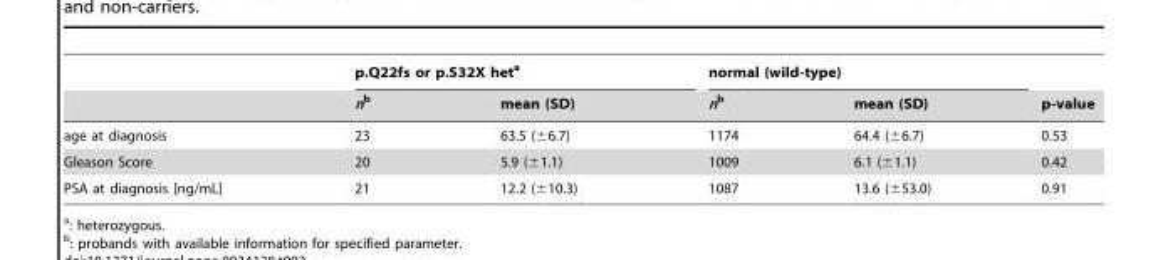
<table><thead><tr><td rowspan="2"></td><td colspan="2">p.Q22fs or p.S32X het<sup>a</sup></td><td colspan="2">normal (wild-type)</td><td rowspan="2">p-value</td></tr><tr><td>nb</td><td>mean (SD)</td><td>nb</td><td>mean (SD)</td></tr></thead><tbody><tr><td>age at diagnosis</td><td>23</td><td>63.5 (±6.7)</td><td>1174</td><td>64.4 (±6.7)</td><td>0.53</td></tr><tr><td>Gleason Score</td><td>20</td><td>5.9 (±1.1)</td><td>1009</td><td>6.1 (±1.1)</td><td>0.42</td></tr><tr><td>PSA at diagnosis [ng/mL]</td><td>21</td><td>12.2 (±10.3)</td><td>1087</td><td>13.6 (±53.0)</td><td>0.91</td></tr></tbody></table>